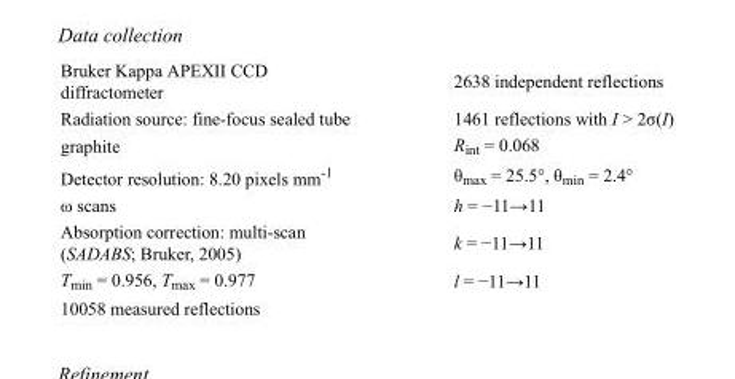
<table><tbody><tr><td>Bruker Kappa APEXII CCD diffractometer</td><td>2638 independent reflections</td></tr><tr><td>Radiation source: fine-focus sealed tube</td><td>1461 reflections with I &gt; 2σ(I)</td></tr><tr><td>graphite</td><td>R<sub>int</sub> = 0.068</td></tr><tr><td>Detector resolution: 8.20 pixels mm<sup>-1</sup></td><td>θ<sub>max</sub> = 25.5°, θ<sub>min</sub> = 2.4°</td></tr><tr><td>ω scans</td><td>h = −11→11</td></tr><tr><td>Absorption correction: multi-scan (SADABS; Bruker, 2005)</td><td>k = −11→11</td></tr><tr><td>T<sub>min</sub> = 0.956, T<sub>max</sub> = 0.977</td><td>l = −11→11</td></tr><tr><td>10058 measured reflections</td><td></td></tr></tbody></table>